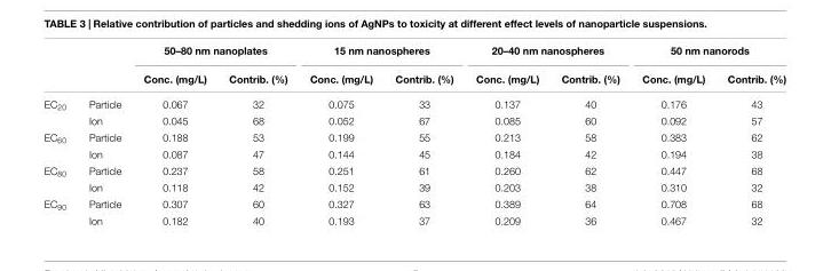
<table><thead><tr><td rowspan="2"></td><td rowspan="2"></td><td colspan="2">50–80 nm nanoplates</td><td colspan="2">15 nm nanospheres</td><td colspan="2">20–40 nm nanospheres</td><td colspan="2">50 nm nanorods</td></tr><tr><td>Conc. (mg/L)</td><td>Contrib. (%)</td><td>Conc. (mg/L)</td><td>Contrib. (%)</td><td>Conc. (mg/L)</td><td>Contrib. (%)</td><td>Conc. (mg/L)</td><td>Contrib. (%)</td></tr></thead><tbody><tr><td rowspan="2">EC<sub>20</sub></td><td>Particle</td><td>0.067</td><td>32</td><td>0.075</td><td>33</td><td>0.137</td><td>40</td><td>0.176</td><td>43</td></tr><tr><td>Ion</td><td>0.045</td><td>68</td><td>0.052</td><td>67</td><td>0.085</td><td>60</td><td>0.092</td><td>57</td></tr><tr><td rowspan="2">EC<sub>60</sub></td><td>Particle</td><td>0.188</td><td>53</td><td>0.199</td><td>55</td><td>0.213</td><td>58</td><td>0.383</td><td>62</td></tr><tr><td>Ion</td><td>0.087</td><td>47</td><td>0.144</td><td>45</td><td>0.184</td><td>42</td><td>0.194</td><td>38</td></tr><tr><td rowspan="2">EC<sub>80</sub></td><td>Particle</td><td>0.237</td><td>58</td><td>0.251</td><td>61</td><td>0.260</td><td>62</td><td>0.447</td><td>68</td></tr><tr><td>Ion</td><td>0.118</td><td>42</td><td>0.152</td><td>39</td><td>0.203</td><td>38</td><td>0.310</td><td>32</td></tr><tr><td rowspan="2">EC<sub>90</sub></td><td>Particle</td><td>0.307</td><td>60</td><td>0.327</td><td>63</td><td>0.389</td><td>64</td><td>0.708</td><td>68</td></tr><tr><td>Ion</td><td>0.182</td><td>40</td><td>0.193</td><td>37</td><td>0.209</td><td>36</td><td>0.467</td><td>32</td></tr></tbody></table>